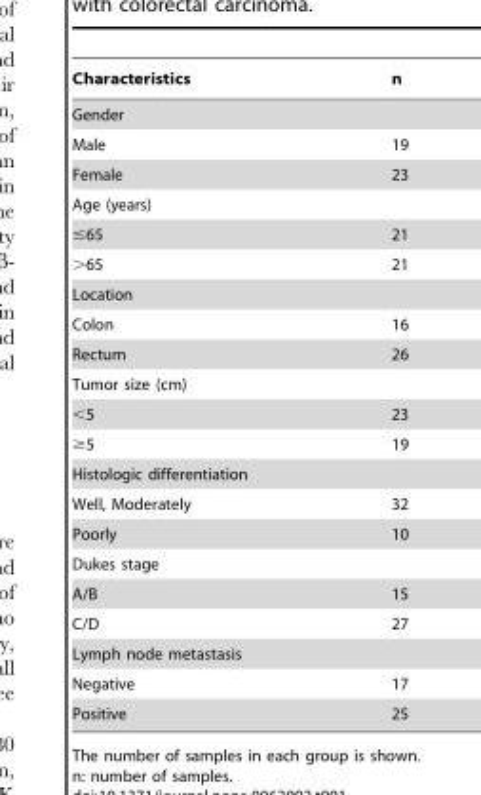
<table><thead><tr><td>Characteristics</td><td>n</td></tr></thead><tbody><tr><td colspan="2">Gender</td></tr><tr><td>Male</td><td>19</td></tr><tr><td>Female</td><td>23</td></tr><tr><td colspan="2">Age (years)</td></tr><tr><td>≤65</td><td>21</td></tr><tr><td>&gt;65</td><td>21</td></tr><tr><td colspan="2">Location</td></tr><tr><td>Colon</td><td>16</td></tr><tr><td>Rectum</td><td>26</td></tr><tr><td colspan="2">Tumor size (cm)</td></tr><tr><td>&lt;5</td><td>23</td></tr><tr><td>≥5</td><td>19</td></tr><tr><td colspan="2">Histologic differentiation</td></tr><tr><td>Well, Moderately</td><td>32</td></tr><tr><td>Poorly</td><td>10</td></tr><tr><td colspan="2">Dukes stage</td></tr><tr><td>A/B</td><td>15</td></tr><tr><td>C/D</td><td>27</td></tr><tr><td colspan="2">Lymph node metastasis</td></tr><tr><td>Negative</td><td>17</td></tr><tr><td>Positive</td><td>25</td></tr></tbody></table>